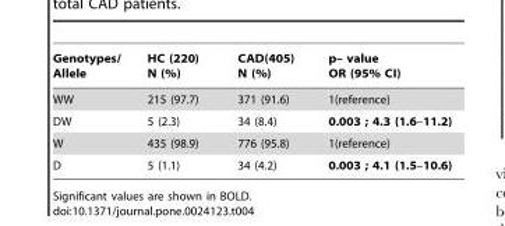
<table><thead><tr><td>Genotypes/ Allele</td><td>HC (220) N (%)</td><td>CAD(405) N (%)</td><td>p– value OR (95% CI)</td></tr></thead><tbody><tr><td>WW</td><td>215 (97.7)</td><td>371 (91.6)</td><td>1(reference)</td></tr><tr><td>DW</td><td>5 (2.3)</td><td>34 (8.4)</td><td>0.003 ; 4.3 (1.6–11.2)</td></tr><tr><td>W</td><td>435 (98.9)</td><td>776 (95.8)</td><td>1(reference)</td></tr><tr><td>D</td><td>5 (1.1)</td><td>34 (4.2)</td><td>0.003 ; 4.1 (1.5–10.6)</td></tr></tbody></table>